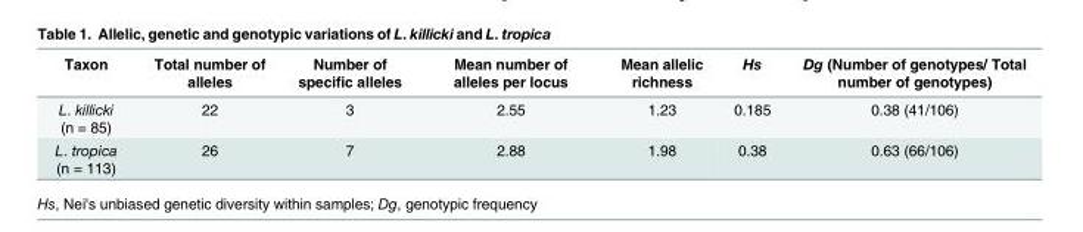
<table><thead><tr><td>Taxon</td><td>Total number of alleles</td><td>Number of specific alleles</td><td>Mean number of alleles per locus</td><td>Mean allelic richness</td><td>Hs</td><td>Dg (Number of genotypes/ Total number of genotypes)</td></tr></thead><tbody><tr><td>L. killicki (n = 85)</td><td>22</td><td>3</td><td>2.55</td><td>1.23</td><td>0.185</td><td>0.38 (41/106)</td></tr><tr><td>L. tropica (n = 113)</td><td>26</td><td>7</td><td>2.88</td><td>1.98</td><td>0.38</td><td>0.63 (66/106)</td></tr></tbody></table>